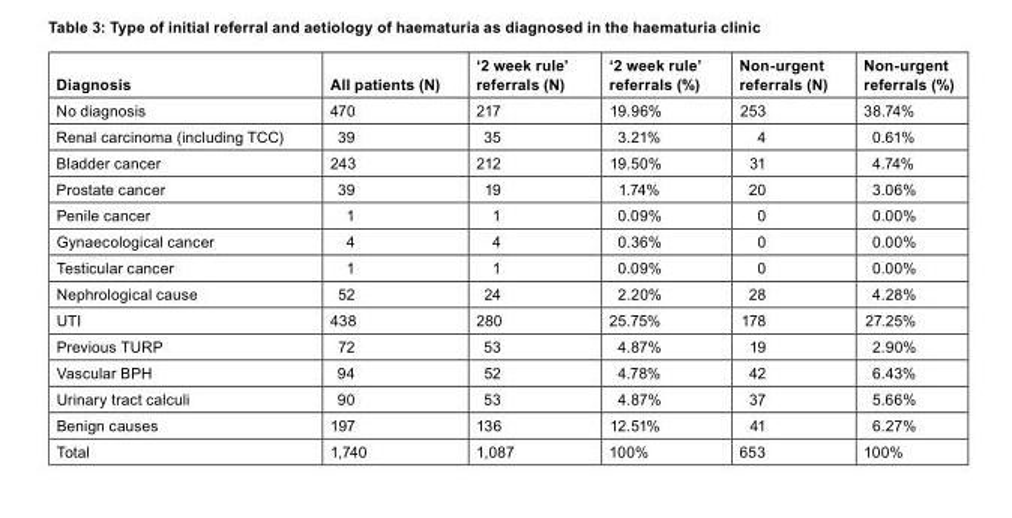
<table><thead><tr><td>Diagnosis</td><td>All patients (N)</td><td>‘2 week rule’ referrals (N)</td><td>‘2 week rule’ referrals (%)</td><td>Non-urgent referrals (N)</td><td>Non-urgent referrals (%)</td></tr></thead><tbody><tr><td>No diagnosis</td><td>470</td><td>217</td><td>19.96%</td><td>253</td><td>38.74%</td></tr><tr><td>Renal carcinoma (including TCC)</td><td>39</td><td>35</td><td>3.21%</td><td>4</td><td>0.61%</td></tr><tr><td>Bladder cancer</td><td>243</td><td>212</td><td>19.50%</td><td>31</td><td>4.74%</td></tr><tr><td>Prostate cancer</td><td>39</td><td>19</td><td>1.74%</td><td>20</td><td>3.06%</td></tr><tr><td>Penile cancer</td><td>1</td><td>1</td><td>0.09%</td><td>0</td><td>0.00%</td></tr><tr><td>Gynaecological cancer</td><td>4</td><td>4</td><td>0.36%</td><td>0</td><td>0.00%</td></tr><tr><td>Testicular cancer</td><td>1</td><td>1</td><td>0.09%</td><td>0</td><td>0.00%</td></tr><tr><td>Nephrological cause</td><td>52</td><td>24</td><td>2.20%</td><td>28</td><td>4.28%</td></tr><tr><td>UTI</td><td>438</td><td>280</td><td>25.75%</td><td>178</td><td>27.25%</td></tr><tr><td>Previous TURP</td><td>72</td><td>53</td><td>4.87%</td><td>19</td><td>2.90%</td></tr><tr><td>Vascular BPH</td><td>94</td><td>52</td><td>4.78%</td><td>42</td><td>6.43%</td></tr><tr><td>Urinary tract calculi</td><td>90</td><td>53</td><td>4.87%</td><td>37</td><td>5.66%</td></tr><tr><td>Benign causes</td><td>197</td><td>136</td><td>12.51%</td><td>41</td><td>6.27%</td></tr><tr><td>Total</td><td>1,740</td><td>1,087</td><td>100%</td><td>653</td><td>100%</td></tr></tbody></table>